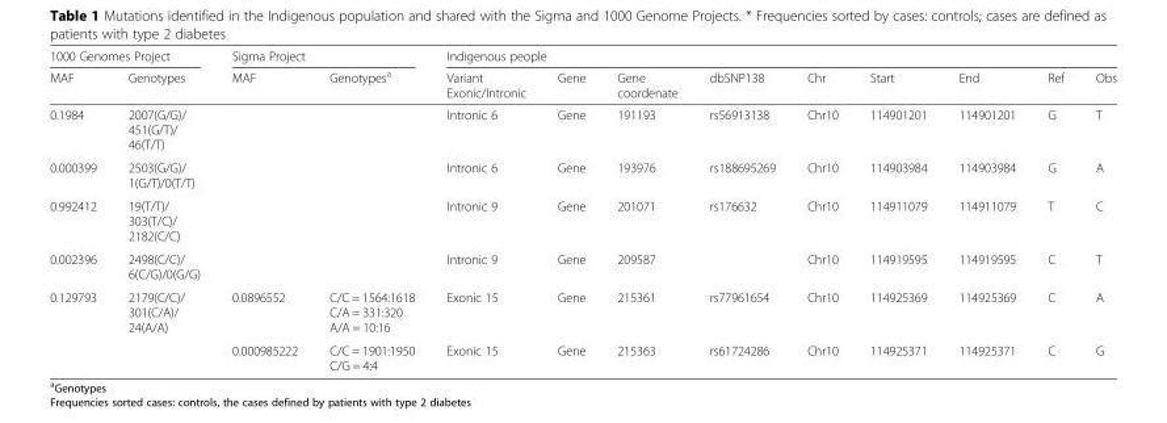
<table><thead><tr><td colspan="2">1000 Genomes Project</td><td colspan="2">Sigma Project</td><td colspan="9">Indigenous people</td></tr><tr><td>MAF</td><td>Genotypes</td><td>MAF</td><td>Genotypes<sup>a</sup></td><td>Variant Exonic/Intronic</td><td>Gene</td><td>Gene coordenate</td><td>dbSNP138</td><td>Chr</td><td>Start</td><td>End</td><td>Ref</td><td>Obs</td></tr></thead><tbody><tr><td>0.1984</td><td>2007(G/G)/ 451(G/T)/ 46(T/T)</td><td></td><td></td><td>Intronic 6</td><td>Gene</td><td>191193</td><td>rs56913138</td><td>Chr10</td><td>114901201</td><td>114901201</td><td>G</td><td>T</td></tr><tr><td>0.000399</td><td>2503(G/G)/ 1(G/T)/0(T/T)</td><td></td><td></td><td>Intronic 6</td><td>Gene</td><td>193976</td><td>rs188695269</td><td>Chr10</td><td>114903984</td><td>114903984</td><td>G</td><td>A</td></tr><tr><td>0.992412</td><td>19(T/T)/ 303(T/C)/ 2182(C/C)</td><td></td><td></td><td>Intronic 9</td><td>Gene</td><td>201071</td><td>rs176632</td><td>Chr10</td><td>114911079</td><td>114911079</td><td>T</td><td>C</td></tr><tr><td>0.002396</td><td>2498(C/C)/ 6(C/G)/0(G/G)</td><td></td><td></td><td>Intronic 9</td><td>Gene</td><td>209587</td><td></td><td>Chr10</td><td>114919595</td><td>114919595</td><td>C</td><td>T</td></tr><tr><td rowspan="2">0.129793</td><td>2179(C/C)/ 301(C/A)/ 24(A/A)</td><td>0.0896552</td><td>C/C = 1564:1618 C/A = 331:320 A/A = 10:16</td><td>Exonic 15</td><td>Gene</td><td>215361</td><td>rs77961654</td><td>Chr10</td><td>114925369</td><td>114925369</td><td>C</td><td>A</td></tr><tr><td></td><td>0.000985222</td><td>C/C = 1901:1950 C/G = 4:4</td><td>Exonic 15</td><td>Gene</td><td>215363</td><td>rs61724286</td><td>Chr10</td><td>114925371</td><td>114925371</td><td>C</td><td>G</td></tr></tbody></table>